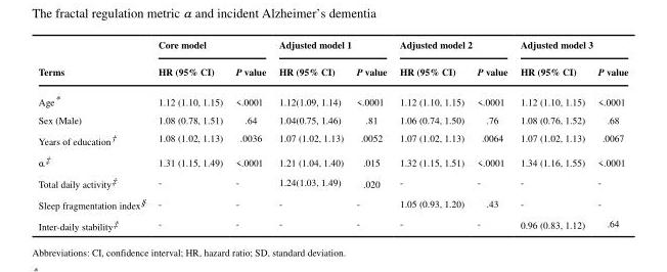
<table><thead><tr><td rowspan="2">Terms</td><td colspan="2">Core model</td><td colspan="2">Adjusted model 1</td><td colspan="2">Adjusted model 2</td><td colspan="2">Adjusted model 3</td></tr><tr><td>HR (95% CI)</td><td>P value</td><td>HR (95% CI)</td><td>P value</td><td>HR (95% CI)</td><td>P value</td><td>HR (95% CI)</td><td>P value</td></tr></thead><tbody><tr><td>Age*</td><td>1.12 (1.10, 1.15)</td><td>&lt;.0001</td><td>1.12(1.09, 1.14)</td><td>&lt;.0001</td><td>1.12 (1.10, 1.15)</td><td>&lt;.0001</td><td>1.12 (1.10, 1.15)</td><td>&lt;.0001</td></tr><tr><td>Sex (Male)</td><td>1.08 (0.78, 1.51)</td><td>.64</td><td>1.04(0.75, 1.46)</td><td>.81</td><td>1.06 (0.74, 1.50)</td><td>.76</td><td>1.08 (0.76, 1.52)</td><td>.68</td></tr><tr><td>Years of education†</td><td>1.08 (1.02, 1.13)</td><td>.0036</td><td>1.07 (1.02, 1.13)</td><td>.0052</td><td>1.07 (1.02, 1.13)</td><td>.0064</td><td>1.07 (1.02, 1.13)</td><td>.0067</td></tr><tr><td>α‡</td><td>1.31 (1.15, 1.49)</td><td>&lt;.0001</td><td>1.21 (1.04, 1.40)</td><td>.015</td><td>1.32 (1.15, 1.51)</td><td>&lt;.0001</td><td>1.34 (1.16, 1.55)</td><td>&lt;.0001</td></tr><tr><td>Total daily activity‡</td><td>-</td><td>-</td><td>1.24(1.03, 1.49)</td><td>.020</td><td>-</td><td>-</td><td>-</td><td>-</td></tr><tr><td>Sleep fragmentation index§</td><td>-</td><td>-</td><td>-</td><td>-</td><td>1.05 (0.93, 1.20)</td><td>.43</td><td>-</td><td>-</td></tr><tr><td>Inter-daily stability‡</td><td>-</td><td>-</td><td>-</td><td>-</td><td>-</td><td>-</td><td>0.96 (0.83, 1.12)</td><td>.64</td></tr></tbody></table>